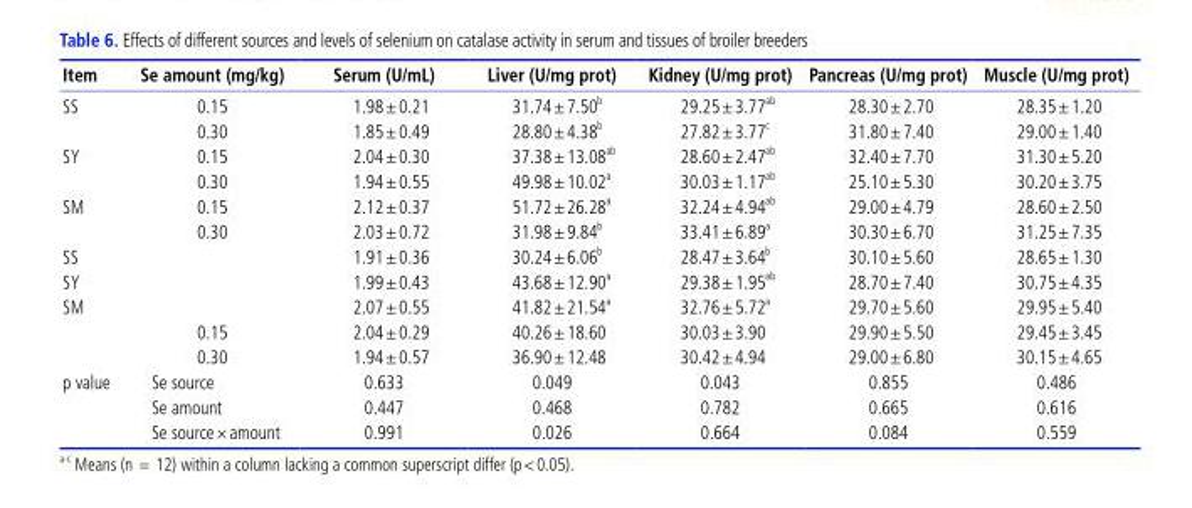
<table><thead><tr><td>Item</td><td>Se amount (mg/kg)</td><td>Serum (U/mL)</td><td>Liver (U/mg prot)</td><td>Kidney (U/mg prot)</td><td>Pancreas (U/mg prot)</td><td>Muscle (U/mg prot)</td></tr></thead><tbody><tr><td rowspan="2">SS</td><td>0.15</td><td>1.98±0.21</td><td>31.74±7.50 <sup>b</sup></td><td>29.25±3.77 <sup>ab</sup></td><td>28.30±2.70</td><td>28.35±1.20</td></tr><tr><td>0.30</td><td>1.85±0.49</td><td>28.80±4.38 <sup>b</sup></td><td>27.82±3.77 <sup>c</sup></td><td>31.80±7.40</td><td>29.00±1.40</td></tr><tr><td rowspan="2">SY</td><td>0.15</td><td>2.04±0.30</td><td>37.38±13.08 <sup>ab</sup></td><td>28.60±2.47 <sup>ab</sup></td><td>32.40±7.70</td><td>31.30±5.20</td></tr><tr><td>0.30</td><td>1.94±0.55</td><td>49.98±10.02 <sup>a</sup></td><td>30.03±1.17 <sup>ab</sup></td><td>25.10±5.30</td><td>30.20±3.75</td></tr><tr><td rowspan="2">SM</td><td>0.15</td><td>2.12±0.37</td><td>51.72±26.28 <sup>a</sup></td><td>32.24±4.94 <sup>ab</sup></td><td>29.00±4.79</td><td>28.60±2.50</td></tr><tr><td>0.30</td><td>2.03±0.72</td><td>31.98±9.84 <sup>b</sup></td><td>33.41±6.89 <sup>a</sup></td><td>30.30±6.70</td><td>31.25±7.35</td></tr><tr><td>SS</td><td></td><td>1.91±0.36</td><td>30.24±6.06 <sup>b</sup></td><td>28.47±3.64 <sup>b</sup></td><td>30.10±5.60</td><td>28.65±1.30</td></tr><tr><td>SY</td><td></td><td>1.99±0.43</td><td>43.68±12.90 <sup>a</sup></td><td>29.38±1.95 <sup>ab</sup></td><td>28.70±7.40</td><td>30.75±4.35</td></tr><tr><td rowspan="3">SM</td><td></td><td>2.07±0.55</td><td>41.82±21.54 <sup>a</sup></td><td>32.76±5.72 <sup>a</sup></td><td>29.70±5.60</td><td>29.95±5.40</td></tr><tr><td>0.15</td><td>2.04±0.29</td><td>40.26±18.60</td><td>30.03±3.90</td><td>29.90±5.50</td><td>29.45±3.45</td></tr><tr><td>0.30</td><td>1.94±0.57</td><td>36.90±12.48</td><td>30.42±4.94</td><td>29.00±6.80</td><td>30.15±4.65</td></tr><tr><td rowspan="3">p value</td><td>Se source</td><td>0.633</td><td>0.049</td><td>0.043</td><td>0.855</td><td>0.486</td></tr><tr><td>Se amount</td><td>0.447</td><td>0.468</td><td>0.782</td><td>0.665</td><td>0.616</td></tr><tr><td>Se source×amount</td><td>0.991</td><td>0.026</td><td>0.664</td><td>0.084</td><td>0.559</td></tr></tbody></table>